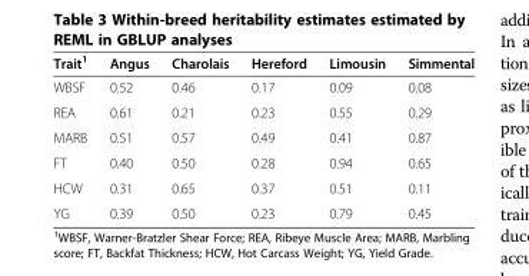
<table><thead><tr><td>Trait<sup>1</sup></td><td>Angus</td><td>Charolais</td><td>Hereford</td><td>Limousin</td><td>Simmental</td></tr></thead><tbody><tr><td>WBSF</td><td>0.52</td><td>0.46</td><td>0.17</td><td>0.09</td><td>0.08</td></tr><tr><td>REA</td><td>0.61</td><td>0.21</td><td>0.23</td><td>0.55</td><td>0.29</td></tr><tr><td>MARB</td><td>0.51</td><td>0.57</td><td>0.49</td><td>0.41</td><td>0.87</td></tr><tr><td>FT</td><td>0.40</td><td>0.50</td><td>0.28</td><td>0.94</td><td>0.65</td></tr><tr><td>HCW</td><td>0.31</td><td>0.65</td><td>0.37</td><td>0.51</td><td>0.11</td></tr><tr><td>YG</td><td>0.39</td><td>0.50</td><td>0.23</td><td>0.79</td><td>0.45</td></tr></tbody></table>